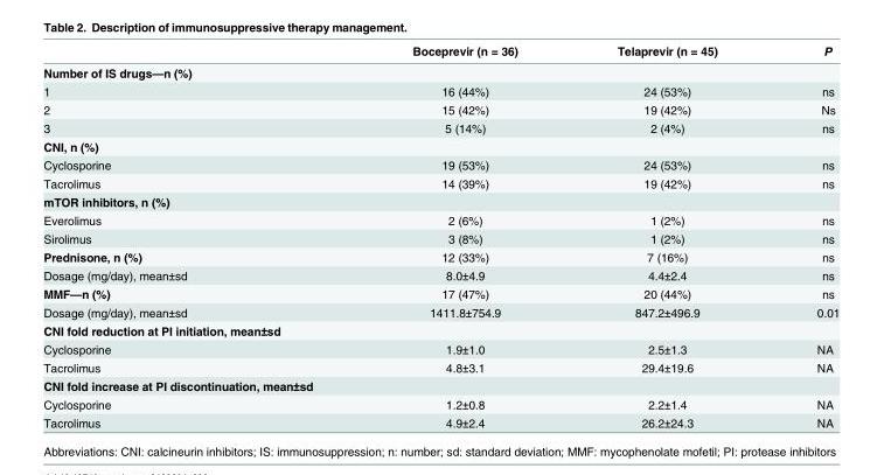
<table><thead><tr><td></td><td>Boceprevir (n = 36)</td><td>Telaprevir (n = 45)</td><td>P</td></tr></thead><tbody><tr><td colspan="4">Number of IS drugs—n (%)</td></tr><tr><td>1</td><td>16 (44%)</td><td>24 (53%)</td><td>ns</td></tr><tr><td>2</td><td>15 (42%)</td><td>19 (42%)</td><td>Ns</td></tr><tr><td>3</td><td>5 (14%)</td><td>2 (4%)</td><td>ns</td></tr><tr><td colspan="4">CNI, n (%)</td></tr><tr><td>Cyclosporine</td><td>19 (53%)</td><td>24 (53%)</td><td>ns</td></tr><tr><td>Tacrolimus</td><td>14 (39%)</td><td>19 (42%)</td><td>ns</td></tr><tr><td colspan="4">mTOR inhibitors, n (%)</td></tr><tr><td>Everolimus</td><td>2 (6%)</td><td>1 (2%)</td><td>ns</td></tr><tr><td>Sirolimus</td><td>3 (8%)</td><td>1 (2%)</td><td>ns</td></tr><tr><td>Prednisone, n (%)</td><td>12 (33%)</td><td>7 (16%)</td><td>ns</td></tr><tr><td>Dosage (mg/day), mean±sd</td><td>8.0±4.9</td><td>4.4±2.4</td><td>ns</td></tr><tr><td>MMF—n (%)</td><td>17 (47%)</td><td>20 (44%)</td><td>ns</td></tr><tr><td>Dosage (mg/day), mean±sd</td><td>1411.8±754.9</td><td>847.2±496.9</td><td>0.01</td></tr><tr><td colspan="4">CNI fold reduction at PI initiation, mean±sd</td></tr><tr><td>Cyclosporine</td><td>1.9±1.0</td><td>2.5±1.3</td><td>NA</td></tr><tr><td>Tacrolimus</td><td>4.8±3.1</td><td>29.4±19.6</td><td>NA</td></tr><tr><td colspan="4">CNI fold increase at PI discontinuation, mean±sd</td></tr><tr><td>Cyclosporine</td><td>1.2±0.8</td><td>2.2±1.4</td><td>NA</td></tr><tr><td>Tacrolimus</td><td>4.9±2.4</td><td>26.2±24.3</td><td>NA</td></tr></tbody></table>